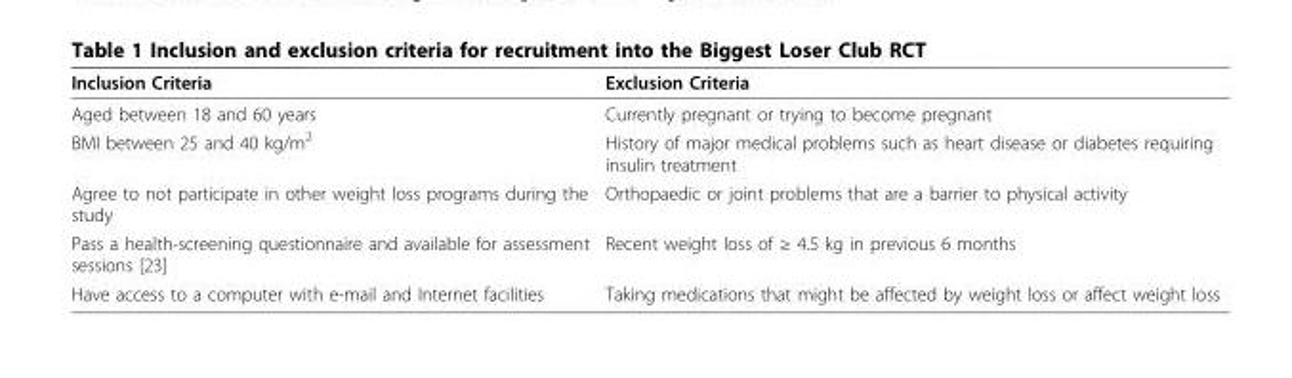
<table><thead><tr><td>Inclusion Criteria</td><td>Exclusion Criteria</td></tr></thead><tbody><tr><td>Aged between 18 and 60 years</td><td>Currently pregnant or trying to become pregnant</td></tr><tr><td>BMI between 25 and 40 kg/m<sup>2</sup></td><td>History of major medical problems such as heart disease or diabetes requiring insulin treatment</td></tr><tr><td>Agree to not participate in other weight loss programs during the study</td><td>Orthopaedic or joint problems that are a barrier to physical activity</td></tr><tr><td>Pass a health-screening questionnaire and available for assessment sessions [23]</td><td>Recent weight loss of ≥ 4.5 kg in previous 6 months</td></tr><tr><td>Have access to a computer with e-mail and Internet facilities</td><td>Taking medications that might be affected by weight loss or affect weight loss</td></tr></tbody></table>